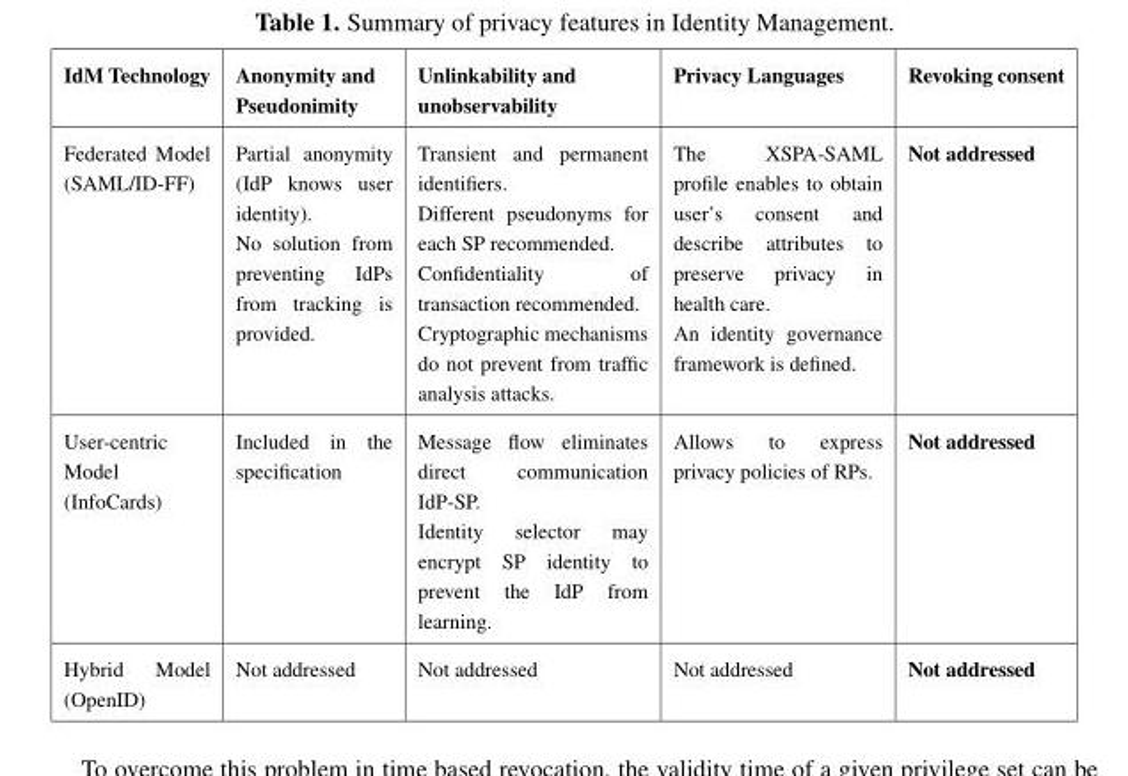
<table><thead><tr><td>IdM Technology</td><td>Anonymity and Pseudonimity</td><td>Unlinkability and unobservability</td><td>Privacy Languages</td><td>Revoking consent</td></tr></thead><tbody><tr><td>Federated Model (SAML/ID-FF)</td><td>Partial anonymity (IdP knows user identity). No solution from preventing IdPs from tracking is provided.</td><td>Transient and permanent identifiers. Different pseudonyms for each SP recommended. Confidentiality of transaction recommended. Cryptographic mechanisms do not prevent from traffic analysis attacks.</td><td>The XSPA-SAML profile enables to obtain user’s consent and describe attributes to preserve privacy in health care. An identity governance framework is defined.</td><td>Not addressed</td></tr><tr><td>User-centric Model (InfoCards)</td><td>Included in the specification</td><td>Message flow eliminates direct communication IdP-SP. Identity selector may encrypt SP identity to prevent the IdP from learning.</td><td>Allows to express privacy policies of RPs.</td><td>Not addressed</td></tr><tr><td>Hybrid Model (OpenID)</td><td>Not addressed</td><td>Not addressed</td><td>Not addressed</td><td>Not addressed</td></tr></tbody></table>